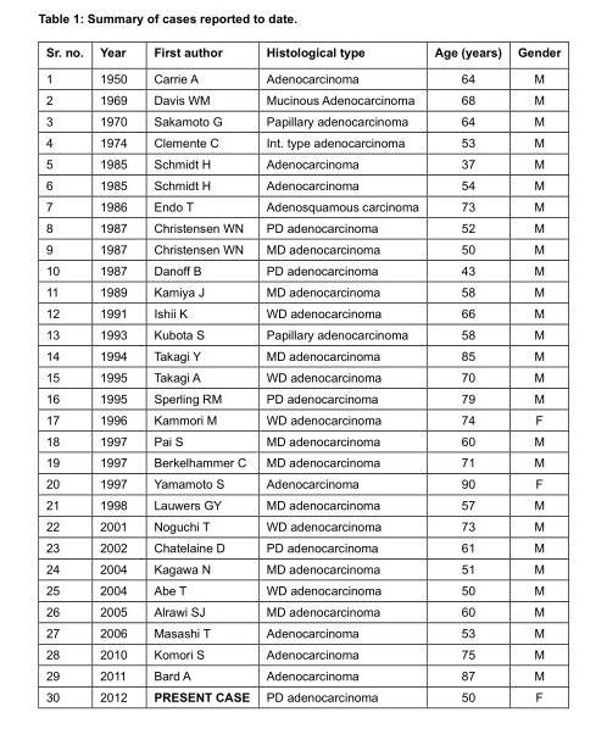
<table><thead><tr><td>Sr. no.</td><td>Year</td><td>First author</td><td>Histological type</td><td>Age (years)</td><td>Gender</td></tr></thead><tbody><tr><td>1</td><td>1950</td><td>Carrie A</td><td>Adenocarcinoma</td><td>64</td><td>M</td></tr><tr><td>2</td><td>1969</td><td>Davis WM</td><td>Mucinous Adenocarcinoma</td><td>68</td><td>M</td></tr><tr><td>3</td><td>1970</td><td>Sakamoto G</td><td>Papillary adenocarcinoma</td><td>64</td><td>M</td></tr><tr><td>4</td><td>1974</td><td>Clemente C</td><td>Int. type adenocarcinoma</td><td>53</td><td>M</td></tr><tr><td>5</td><td>1985</td><td>Schmidt H</td><td>Adenocarcinoma</td><td>37</td><td>M</td></tr><tr><td>6</td><td>1985</td><td>Schmidt H</td><td>Adenocarcinoma</td><td>54</td><td>M</td></tr><tr><td>7</td><td>1986</td><td>Endo T</td><td>Adenosquamous carcinoma</td><td>73</td><td>M</td></tr><tr><td>8</td><td>1987</td><td>Christensen WN</td><td>PD adenocarcinoma</td><td>52</td><td>M</td></tr><tr><td>9</td><td>1987</td><td>Christensen WN</td><td>MD adenocarcinoma</td><td>50</td><td>M</td></tr><tr><td>10</td><td>1987</td><td>Danoff B</td><td>PD adenocarcinoma</td><td>43</td><td>M</td></tr><tr><td>11</td><td>1989</td><td>Kamiya J</td><td>MD adenocarcinoma</td><td>58</td><td>M</td></tr><tr><td>12</td><td>1991</td><td>Ishii K</td><td>WD adenocarcinoma</td><td>66</td><td>M</td></tr><tr><td>13</td><td>1993</td><td>Kubota S</td><td>Papillary adenocarcinoma</td><td>58</td><td>M</td></tr><tr><td>14</td><td>1994</td><td>Takagi Y</td><td>MD adenocarcinoma</td><td>85</td><td>M</td></tr><tr><td>15</td><td>1995</td><td>Takagi A</td><td>WD adenocarcinoma</td><td>70</td><td>M</td></tr><tr><td>16</td><td>1995</td><td>Sperling RM</td><td>PD adenocarcinoma</td><td>79</td><td>M</td></tr><tr><td>17</td><td>1996</td><td>Kammori M</td><td>WD adenocarcinoma</td><td>74</td><td>F</td></tr><tr><td>18</td><td>1997</td><td>Pai S</td><td>MD adenocarcinoma</td><td>60</td><td>M</td></tr><tr><td>19</td><td>1997</td><td>Berkelhammer C</td><td>MD adenocarcinoma</td><td>71</td><td>M</td></tr><tr><td>20</td><td>1997</td><td>Yamamoto S</td><td>Adenocarcinoma</td><td>90</td><td>F</td></tr><tr><td>21</td><td>1998</td><td>Lauwers GY</td><td>MD adenocarcinoma</td><td>57</td><td>M</td></tr><tr><td>22</td><td>2001</td><td>Noguchi T</td><td>WD adenocarcinoma</td><td>73</td><td>M</td></tr><tr><td>23</td><td>2002</td><td>Chatelaine D</td><td>PD adenocarcinoma</td><td>61</td><td>M</td></tr><tr><td>24</td><td>2004</td><td>Kagawa N</td><td>MD adenocarcinoma</td><td>51</td><td>M</td></tr><tr><td>25</td><td>2004</td><td>Abe T</td><td>WD adenocarcinoma</td><td>50</td><td>M</td></tr><tr><td>26</td><td>2005</td><td>Alrawi SJ</td><td>MD adenocarcinoma</td><td>60</td><td>M</td></tr><tr><td>27</td><td>2006</td><td>Masashi T</td><td>Adenocarcinoma</td><td>53</td><td>M</td></tr><tr><td>28</td><td>2010</td><td>Komori S</td><td>Adenocarcinoma</td><td>75</td><td>M</td></tr><tr><td>29</td><td>2011</td><td>Bard A</td><td>Adenocarcinoma</td><td>87</td><td>M</td></tr><tr><td>30</td><td>2012</td><td>PRESENT CASE</td><td>PD adenocarcinoma</td><td>50</td><td>F</td></tr></tbody></table>